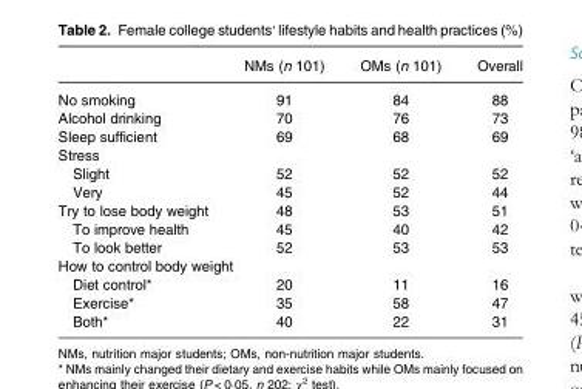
<table><thead><tr><td></td><td>NMs (n 101)</td><td>OMs (n 101)</td><td>Overall</td></tr></thead><tbody><tr><td>No smoking</td><td>91</td><td>84</td><td>88</td></tr><tr><td>Alcohol drinking</td><td>70</td><td>76</td><td>73</td></tr><tr><td>Sleep sufficient</td><td>69</td><td>68</td><td>69</td></tr><tr><td colspan="4">Stress</td></tr><tr><td>Slight</td><td>52</td><td>52</td><td>52</td></tr><tr><td>Very</td><td>45</td><td>52</td><td>44</td></tr><tr><td>Try to lose body weight</td><td>48</td><td>53</td><td>51</td></tr><tr><td>To improve health</td><td>45</td><td>40</td><td>42</td></tr><tr><td>To look better</td><td>52</td><td>53</td><td>53</td></tr><tr><td colspan="4">How to control body weight</td></tr><tr><td>Diet control*</td><td>20</td><td>11</td><td>16</td></tr><tr><td>Exercise*</td><td>35</td><td>58</td><td>47</td></tr><tr><td>Both*</td><td>40</td><td>22</td><td>31</td></tr></tbody></table>